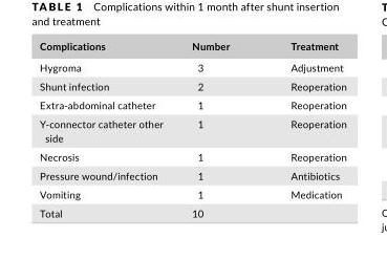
<table><thead><tr><td>Complications</td><td>Number</td><td>Treatment</td></tr></thead><tbody><tr><td>Hygroma</td><td>3</td><td>Adjustment</td></tr><tr><td>Shunt infection</td><td>2</td><td>Reoperation</td></tr><tr><td>Extra- abdominal catheter</td><td>1</td><td>Reoperation</td></tr><tr><td>Y- connector catheter other side</td><td>1</td><td>Reoperation</td></tr><tr><td>Necrosis</td><td>1</td><td>Reoperation</td></tr><tr><td>Pressure wound/infection</td><td>1</td><td>Antibiotics</td></tr><tr><td>Vomiting</td><td>1</td><td>Medication</td></tr><tr><td>Total</td><td>10</td><td></td></tr></tbody></table>